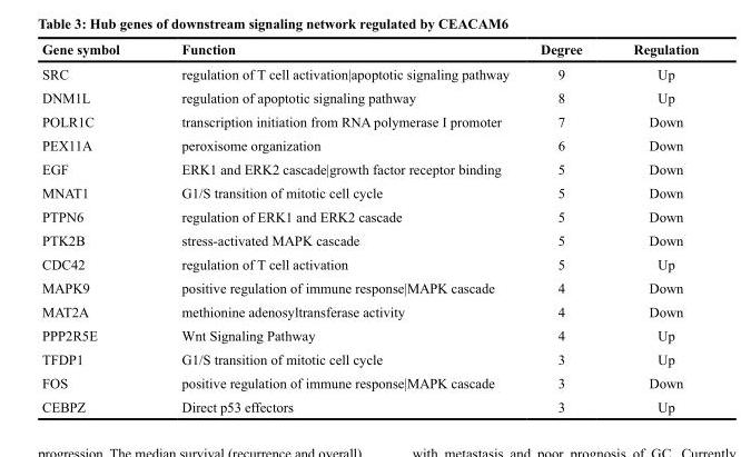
<table><thead><tr><td>Gene symbol</td><td>Function</td><td>Degree</td><td>Regulation</td></tr></thead><tbody><tr><td>SRC</td><td>regulation of T cell activation|apoptotic signaling pathway</td><td>9</td><td>Up</td></tr><tr><td>DNM1L</td><td>regulation of apoptotic signaling pathway</td><td>8</td><td>Up</td></tr><tr><td>POLR1C</td><td>transcription initiation from RNA polymerase I promoter</td><td>7</td><td>Down</td></tr><tr><td>PEX11A</td><td>peroxisome organization</td><td>6</td><td>Down</td></tr><tr><td>EGF</td><td>ERK1 and ERK2 cascade|growth factor receptor binding</td><td>5</td><td>Down</td></tr><tr><td>MNAT1</td><td>G1/S transition of mitotic cell cycle</td><td>5</td><td>Down</td></tr><tr><td>PTPN6</td><td>regulation of ERK1 and ERK2 cascade</td><td>5</td><td>Down</td></tr><tr><td>PTK2B</td><td>stress-activated MAPK cascade</td><td>5</td><td>Down</td></tr><tr><td>CDC42</td><td>regulation of T cell activation</td><td>5</td><td>Up</td></tr><tr><td>MAPK9</td><td>positive regulation of immune response|MAPK cascade</td><td>4</td><td>Down</td></tr><tr><td>MAT2A</td><td>methionine adenosyltransferase activity</td><td>4</td><td>Down</td></tr><tr><td>PPP2R5E</td><td>Wnt Signaling Pathway</td><td>4</td><td>Up</td></tr><tr><td>TFDP1</td><td>G1/S transition of mitotic cell cycle</td><td>3</td><td>Up</td></tr><tr><td>FOS</td><td>positive regulation of immune response|MAPK cascade</td><td>3</td><td>Down</td></tr><tr><td>CEBPZ</td><td>Direct p53 effectors</td><td>3</td><td>Up</td></tr></tbody></table>